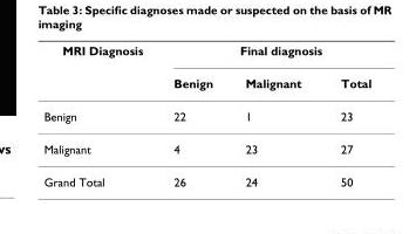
<table><thead><tr><td rowspan="2">MRI Diagnosis</td><td colspan="3">Final diagnosis</td></tr><tr><td>Benign</td><td>Malignant</td><td>Total</td></tr></thead><tbody><tr><td>Benign</td><td>22</td><td>1</td><td>23</td></tr><tr><td>Malignant</td><td>4</td><td>23</td><td>27</td></tr><tr><td>Grand Total</td><td>26</td><td>24</td><td>50</td></tr></tbody></table>